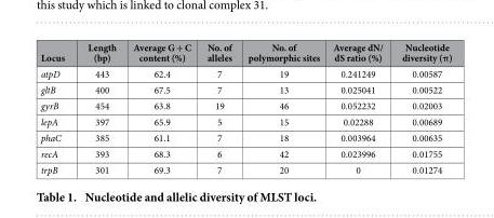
<table><thead><tr><td>Locus</td><td>Length (bp)</td><td>Average G + C content (%)</td><td>No. of alleles</td><td>No. of polymorphic sites</td><td>Average dN/ dS ratio (%)</td><td>Nucleotide diversity (π)</td></tr></thead><tbody><tr><td>atpD</td><td>443</td><td>62.4</td><td>7</td><td>19</td><td>0.241249</td><td>0.00587</td></tr><tr><td>gltB</td><td>400</td><td>67.5</td><td>7</td><td>13</td><td>0.025041</td><td>0.00522</td></tr><tr><td>gyrB</td><td>454</td><td>63.8</td><td>19</td><td>46</td><td>0.052232</td><td>0.02003</td></tr><tr><td>lepA</td><td>397</td><td>65.9</td><td>5</td><td>15</td><td>0.02288</td><td>0.00689</td></tr><tr><td>phaC</td><td>385</td><td>61.1</td><td>7</td><td>18</td><td>0.003964</td><td>0.00635</td></tr><tr><td>recA</td><td>393</td><td>68.3</td><td>6</td><td>42</td><td>0.023996</td><td>0.01755</td></tr><tr><td>trpB</td><td>301</td><td>69.3</td><td>7</td><td>20</td><td>0</td><td>0.01274</td></tr></tbody></table>